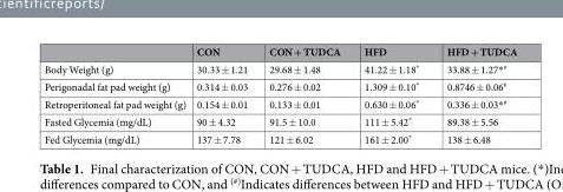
<table><thead><tr><td></td><td>CON</td><td>CON + TUDCA</td><td>HFD</td><td>HFD + TUDCA</td></tr></thead><tbody><tr><td>Body Weight (g)</td><td>30.33 ± 1.21</td><td>29.68 ± 1.48</td><td>41.22 ± 1.18*</td><td>33.88 ± 1.27*<sup>#</sup></td></tr><tr><td>Perigonadal fat pad weight (g)</td><td>0.314 ± 0.03</td><td>0.276 ± 0.02</td><td>1.309 ± 0.10*</td><td>0.8746 ± 0.06<sup>#</sup></td></tr><tr><td>Retroperitoneal fat pad weight (g)</td><td>0.154 ± 0.01</td><td>0.133 ± 0.01</td><td>0.630 ± 0.06*</td><td>0.336 ± 0.03*<sup>#</sup></td></tr><tr><td>Fasted Glycemia (mg/dL)</td><td>90 ± 4.32</td><td>91.5 ± 10.0</td><td>111 ± 5.42*</td><td>89.38 ± 5.56</td></tr><tr><td>Fed Glycemia (mg/dL)</td><td>137 ± 7.78</td><td>121 ± 6.02</td><td>161 ± 2.00*</td><td>138 ± 6.48</td></tr></tbody></table>